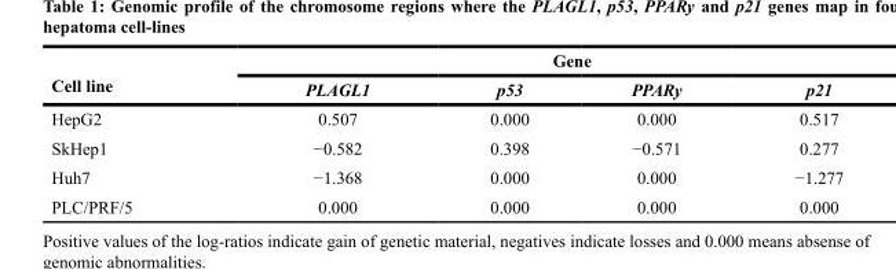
<table><thead><tr><td rowspan="2">Cell line</td><td colspan="4">Gene</td></tr><tr><td>PLAGL1</td><td>p53</td><td>PPARy</td><td>p21</td></tr></thead><tbody><tr><td>HepG2</td><td>0.507</td><td>0.000</td><td>0.000</td><td>0.517</td></tr><tr><td>SkHep1</td><td>−0.582</td><td>0.398</td><td>−0.571</td><td>0.277</td></tr><tr><td>Huh7</td><td>−1.368</td><td>0.000</td><td>0.000</td><td>−1.277</td></tr><tr><td>PLC/PRF/5</td><td>0.000</td><td>0.000</td><td>0.000</td><td>0.000</td></tr></tbody></table>